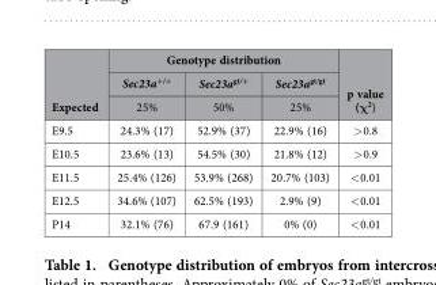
<table><thead><tr><td rowspan="3">Expected</td><td colspan="3">Genotype distribution</td><td rowspan="3">p value (χ<sup>2</sup>)</td></tr><tr><td rowspan="2">Sec23a<sup>+/+</sup> 25%</td><td rowspan="2">Sec23a<sup>gt/+</sup> 50%</td><td rowspan="2">Sec23a<sup>gt/gt</sup> 25%</td></tr><tr></tr></thead><tbody><tr><td>E9.5</td><td>24.3% (17)</td><td>52.9% (37)</td><td>22.9% (16)</td><td>&gt; 0.8</td></tr><tr><td>E10.5</td><td>23.6% (13)</td><td>54.5% (30)</td><td>21.8% (12)</td><td>&gt; 0.9</td></tr><tr><td>E11.5</td><td>25.4% (126)</td><td>53.9% (268)</td><td>20.7% (103)</td><td>&lt; 0.01</td></tr><tr><td>E12.5</td><td>34.6% (107)</td><td>62.5% (193)</td><td>2.9% (9)</td><td>&lt; 0.01</td></tr><tr><td>P14</td><td>32.1% (76)</td><td>67.9 (161)</td><td>0% (0)</td><td>&lt; 0.01</td></tr></tbody></table>